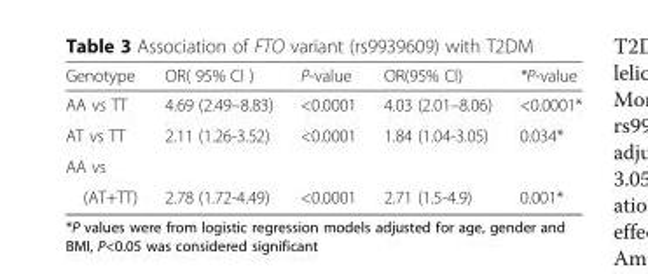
<table><thead><tr><td>Genotype</td><td>OR( 95% CI )</td><td>P-value</td><td>OR(95% CI)</td><td>*P-value</td></tr></thead><tbody><tr><td>AA vs TT</td><td>4.69 (2.49–8.83)</td><td>&lt;0.0001</td><td>4.03 (2.01–8.06)</td><td>&lt;0.0001*</td></tr><tr><td>AT vs TT</td><td>2.11 (1.26-3.52)</td><td>&lt;0.0001</td><td>1.84 (1.04-3.05)</td><td>0.034*</td></tr><tr><td colspan="5">AA vs</td></tr><tr><td>(AT+TT)</td><td>2.78 (1.72-4.49)</td><td>&lt;0.0001</td><td>2.71 (1.5-4.9)</td><td>0.001*</td></tr></tbody></table>